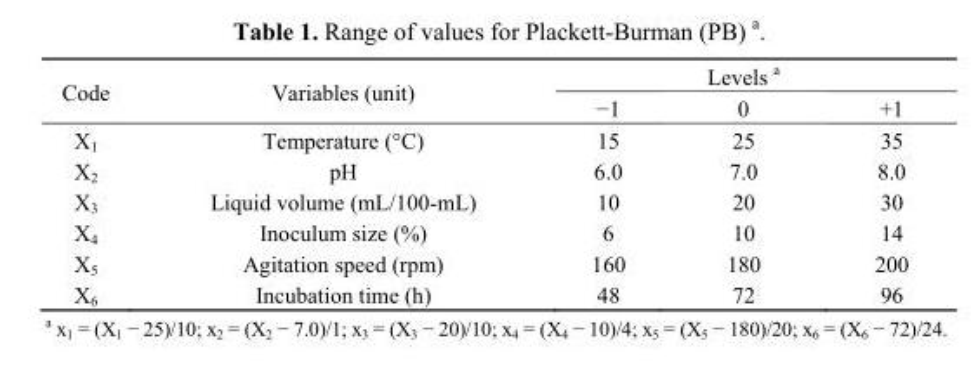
<table><thead><tr><td rowspan="2">Code</td><td rowspan="2">Variables (unit)</td><td rowspan="2">−1</td><td rowspan="2">Levels <sup>a</sup> 0</td><td rowspan="2">+1</td></tr><tr></tr></thead><tbody><tr><td>X<sub>1</sub></td><td>Temperature (°C)</td><td>15</td><td>25</td><td>35</td></tr><tr><td>X<sub>2</sub></td><td>pH</td><td>6.0</td><td>7.0</td><td>8.0</td></tr><tr><td>X<sub>3</sub></td><td>Liquid volume (mL/100-mL)</td><td>10</td><td>20</td><td>30</td></tr><tr><td>X<sub>4</sub></td><td>Inoculum size (%)</td><td>6</td><td>10</td><td>14</td></tr><tr><td>X<sub>5</sub></td><td>Agitation speed (rpm)</td><td>160</td><td>180</td><td>200</td></tr><tr><td>X<sub>6</sub></td><td>Incubation time (h)</td><td>48</td><td>72</td><td>96</td></tr></tbody></table>